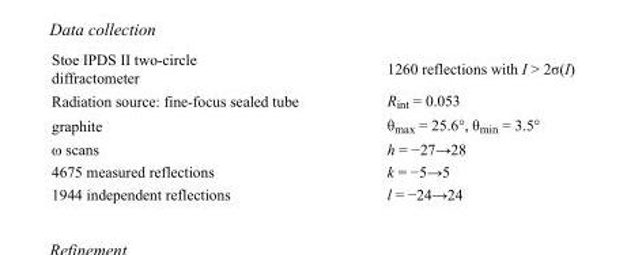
<table><tbody><tr><td>Stoe IPDS II two-circle diffractometer</td><td>1260 reflections with I &gt; 2σ(I)</td></tr><tr><td>Radiation source: fine-focus sealed tube</td><td>R<sub>int</sub> = 0.053</td></tr><tr><td>graphite</td><td>θ<sub>max</sub> = 25.6°, θ<sub>min</sub> = 3.5°</td></tr><tr><td>ω scans</td><td>h = −27→28</td></tr><tr><td>4675 measured reflections</td><td>k = −5→5</td></tr><tr><td>1944 independent reflections</td><td>l = −24→24</td></tr></tbody></table>